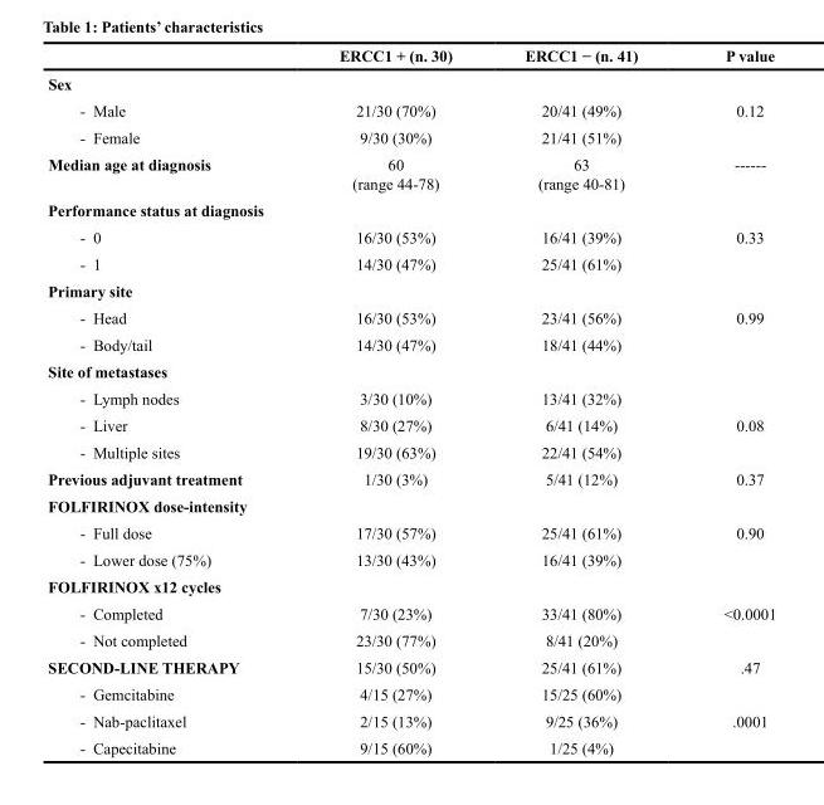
<table><thead><tr><td></td><td>ERCC1 + (n. 30)</td><td>ERCC1 − (n. 41)</td><td>P value</td></tr></thead><tbody><tr><td colspan="4">Sex</td></tr><tr><td>- Male</td><td>21/30 (70%)</td><td>20/41 (49%)</td><td>0.12</td></tr><tr><td>- Female</td><td>9/30 (30%)</td><td>21/41 (51%)</td><td></td></tr><tr><td>Median age at diagnosis</td><td>60 (range 44-78)</td><td>63 (range 40-81)</td><td>------</td></tr><tr><td colspan="4">Performance status at diagnosis</td></tr><tr><td>- 0</td><td>16/30 (53%)</td><td>16/41 (39%)</td><td>0.33</td></tr><tr><td>- 1</td><td>14/30 (47%)</td><td>25/41 (61%)</td><td></td></tr><tr><td colspan="4">Primary site</td></tr><tr><td>- Head</td><td>16/30 (53%)</td><td>23/41 (56%)</td><td>0.99</td></tr><tr><td>- Body/tail</td><td>14/30 (47%)</td><td>18/41 (44%)</td><td></td></tr><tr><td colspan="4">Site of metastases</td></tr><tr><td>- Lymph nodes</td><td>3/30 (10%)</td><td>13/41 (32%)</td><td></td></tr><tr><td>- Liver</td><td>8/30 (27%)</td><td>6/41 (14%)</td><td>0.08</td></tr><tr><td>- Multiple sites</td><td>19/30 (63%)</td><td>22/41 (54%)</td><td></td></tr><tr><td>Previous adjuvant treatment</td><td>1/30 (3%)</td><td>5/41 (12%)</td><td>0.37</td></tr><tr><td colspan="4">FOLFIRINOX dose-intensity</td></tr><tr><td>- Full dose</td><td>17/30 (57%)</td><td>25/41 (61%)</td><td>0.90</td></tr><tr><td>- Lower dose (75%)</td><td>13/30 (43%)</td><td>16/41 (39%)</td><td></td></tr><tr><td colspan="4">FOLFIRINOX x12 cycles</td></tr><tr><td>- Completed</td><td>7/30 (23%)</td><td>33/41 (80%)</td><td>&lt;0.0001</td></tr><tr><td>- Not completed</td><td>23/30 (77%)</td><td>8/41 (20%)</td><td></td></tr><tr><td>SECOND-LINE THERAPY</td><td>15/30 (50%)</td><td>25/41 (61%)</td><td>.47</td></tr><tr><td>- Gemcitabine</td><td>4/15 (27%)</td><td>15/25 (60%)</td><td></td></tr><tr><td>- Nab-paclitaxel</td><td>2/15 (13%)</td><td>9/25 (36%)</td><td>.0001</td></tr><tr><td>- Capecitabine</td><td>9/15 (60%)</td><td>1/25 (4%)</td><td></td></tr></tbody></table>